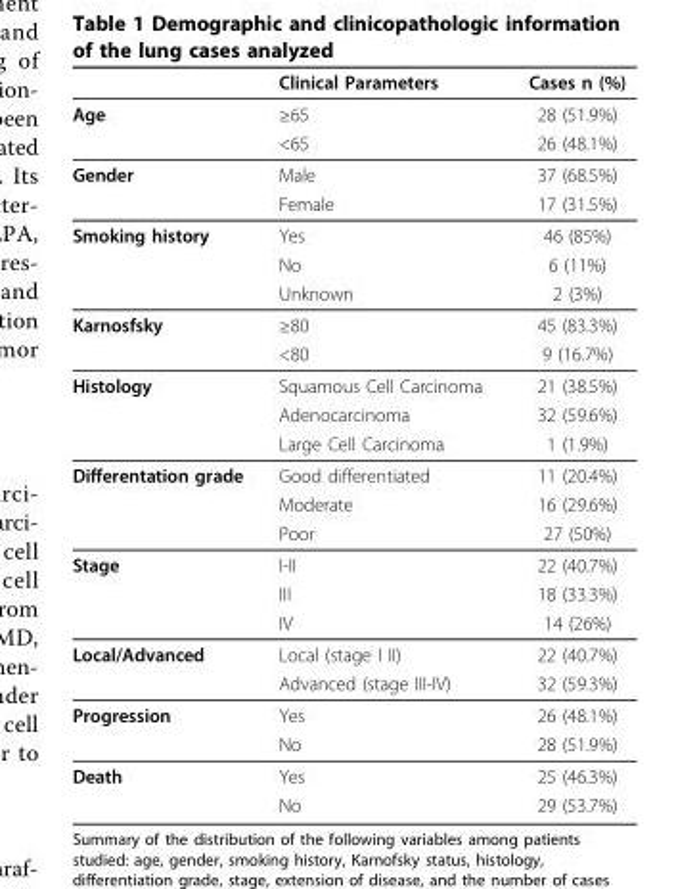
<table><thead><tr><td></td><td>Clinical Parameters</td><td>Cases n (%)</td></tr></thead><tbody><tr><td rowspan="2">Age</td><td>≥65</td><td>28 (51.9%)</td></tr><tr><td>&lt;65</td><td>26 (48.1%)</td></tr><tr><td rowspan="2">Gender</td><td>Male</td><td>37 (68.5%)</td></tr><tr><td>Female</td><td>17 (31.5%)</td></tr><tr><td rowspan="3">Smoking history</td><td>Yes</td><td>46 (85%)</td></tr><tr><td>No</td><td>6 (11%)</td></tr><tr><td>Unknown</td><td>2 (3%)</td></tr><tr><td rowspan="2">Karnosfsky</td><td>≥80</td><td>45 (83.3%)</td></tr><tr><td>&lt;80</td><td>9 (16.7%)</td></tr><tr><td rowspan="3">Histology</td><td>Squamous Cell Carcinoma</td><td>21 (38.5%)</td></tr><tr><td>Adenocarcinoma</td><td>32 (59.6%)</td></tr><tr><td>Large Cell Carcinoma</td><td>1 (1.9%)</td></tr><tr><td rowspan="3">Differentation grade</td><td>Good differentiated</td><td>11 (20.4%)</td></tr><tr><td>Moderate</td><td>16 (29.6%)</td></tr><tr><td>Poor</td><td>27 (50%)</td></tr><tr><td rowspan="3">Stage</td><td>I-II</td><td>22 (40.7%)</td></tr><tr><td>III</td><td>18 (33.3%)</td></tr><tr><td>IV</td><td>14 (26%)</td></tr><tr><td rowspan="2">Local/Advanced</td><td>Local (stage I II)</td><td>22 (40.7%)</td></tr><tr><td>Advanced (stage III-IV)</td><td>32 (59.3%)</td></tr><tr><td rowspan="2">Progression</td><td>Yes</td><td>26 (48.1%)</td></tr><tr><td>No</td><td>28 (51.9%)</td></tr><tr><td rowspan="2">Death</td><td>Yes</td><td>25 (46.3%)</td></tr><tr><td>No</td><td>29 (53.7%)</td></tr></tbody></table>